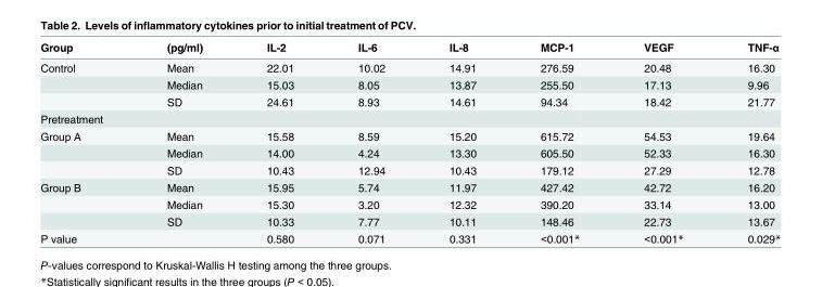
<table><thead><tr><td>Group</td><td>(pg/ml)</td><td>IL-2</td><td>IL-6</td><td>IL-8</td><td>MCP-1</td><td>VEGF</td><td>TNF-α</td></tr></thead><tbody><tr><td rowspan="3">Control</td><td>Mean</td><td>22.01</td><td>10.02</td><td>14.91</td><td>276.59</td><td>20.48</td><td>16.30</td></tr><tr><td>Median</td><td>15.03</td><td>8.05</td><td>13.87</td><td>255.50</td><td>17.13</td><td>9.96</td></tr><tr><td>SD</td><td>24.61</td><td>8.93</td><td>14.61</td><td>94.34</td><td>18.42</td><td>21.77</td></tr><tr><td colspan="8">Pretreatment</td></tr><tr><td rowspan="3">Group A</td><td>Mean</td><td>15.58</td><td>8.59</td><td>15.20</td><td>615.72</td><td>54.53</td><td>19.64</td></tr><tr><td>Median</td><td>14.00</td><td>4.24</td><td>13.30</td><td>605.50</td><td>52.33</td><td>16.30</td></tr><tr><td>SD</td><td>10.43</td><td>12.94</td><td>10.43</td><td>179.12</td><td>27.29</td><td>12.78</td></tr><tr><td rowspan="3">Group B</td><td>Mean</td><td>15.95</td><td>5.74</td><td>11.97</td><td>427.42</td><td>42.72</td><td>16.20</td></tr><tr><td>Median</td><td>15.30</td><td>3.20</td><td>12.32</td><td>390.20</td><td>33.14</td><td>13.00</td></tr><tr><td>SD</td><td>10.33</td><td>7.77</td><td>10.11</td><td>148.46</td><td>22.73</td><td>13.67</td></tr><tr><td colspan="2">P value</td><td>0.580</td><td>0.071</td><td>0.331</td><td>&lt;0.001*</td><td>&lt;0.001*</td><td>0.029*</td></tr></tbody></table>